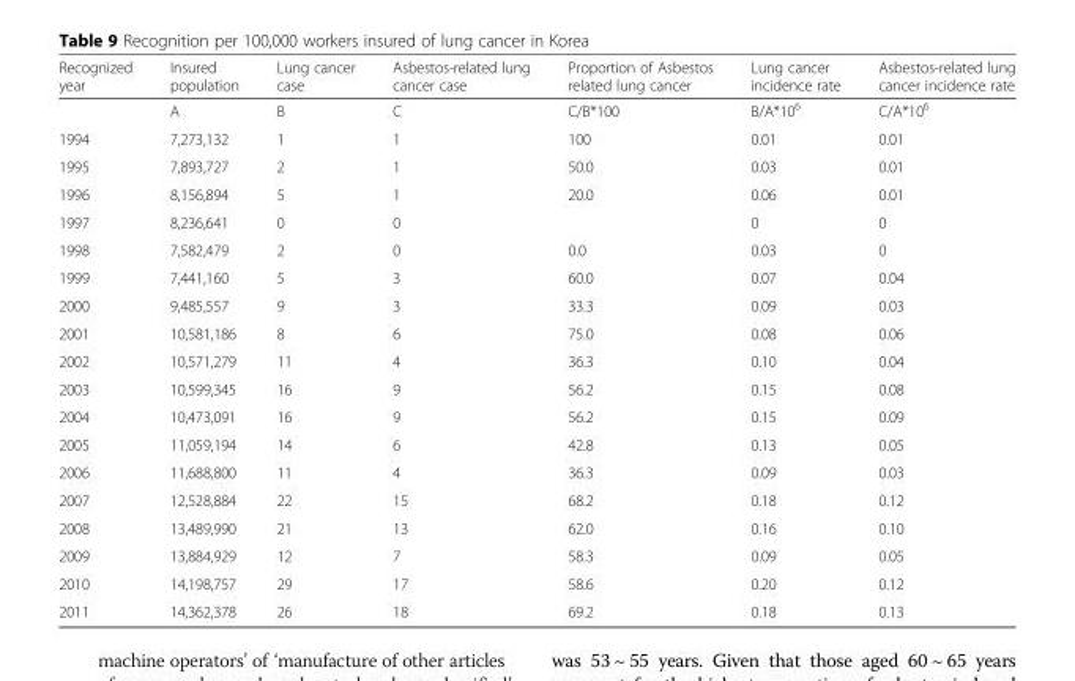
<table><thead><tr><td>Recognized year</td><td>Insured population</td><td>Lung cancer case</td><td>Asbestos-related lung cancer case</td><td>Proportion of Asbestos related lung cancer</td><td>Lung cancer incidence rate</td><td>Asbestos-related lung cancer incidence rate</td></tr></thead><tbody><tr><td></td><td>A</td><td>B</td><td>C</td><td>C/B*100</td><td>B/A*10<sup>6</sup></td><td>C/A*10<sup>6</sup></td></tr><tr><td>1994</td><td>7,273,132</td><td>1</td><td>1</td><td>100</td><td>0.01</td><td>0.01</td></tr><tr><td>1995</td><td>7,893,727</td><td>2</td><td>1</td><td>50.0</td><td>0.03</td><td>0.01</td></tr><tr><td>1996</td><td>8,156,894</td><td>5</td><td>1</td><td>20.0</td><td>0.06</td><td>0.01</td></tr><tr><td>1997</td><td>8,236,641</td><td>0</td><td>0</td><td></td><td>0</td><td>0</td></tr><tr><td>1998</td><td>7,582,479</td><td>2</td><td>0</td><td>0.0</td><td>0.03</td><td>0</td></tr><tr><td>1999</td><td>7,441,160</td><td>5</td><td>3</td><td>60.0</td><td>0.07</td><td>0.04</td></tr><tr><td>2000</td><td>9,485,557</td><td>9</td><td>3</td><td>33.3</td><td>0.09</td><td>0.03</td></tr><tr><td>2001</td><td>10,581,186</td><td>8</td><td>6</td><td>75.0</td><td>0.08</td><td>0.06</td></tr><tr><td>2002</td><td>10,571,279</td><td>11</td><td>4</td><td>36.3</td><td>0.10</td><td>0.04</td></tr><tr><td>2003</td><td>10,599,345</td><td>16</td><td>9</td><td>56.2</td><td>0.15</td><td>0.08</td></tr><tr><td>2004</td><td>10,473,091</td><td>16</td><td>9</td><td>56.2</td><td>0.15</td><td>0.09</td></tr><tr><td>2005</td><td>11,059,194</td><td>14</td><td>6</td><td>42.8</td><td>0.13</td><td>0.05</td></tr><tr><td>2006</td><td>11,688,800</td><td>11</td><td>4</td><td>36.3</td><td>0.09</td><td>0.03</td></tr><tr><td>2007</td><td>12,528,884</td><td>22</td><td>15</td><td>68.2</td><td>0.18</td><td>0.12</td></tr><tr><td>2008</td><td>13,489,990</td><td>21</td><td>13</td><td>62.0</td><td>0.16</td><td>0.10</td></tr><tr><td>2009</td><td>13,884,929</td><td>12</td><td>7</td><td>58.3</td><td>0.09</td><td>0.05</td></tr><tr><td>2010</td><td>14,198,757</td><td>29</td><td>17</td><td>58.6</td><td>0.20</td><td>0.12</td></tr><tr><td>2011</td><td>14,362,378</td><td>26</td><td>18</td><td>69.2</td><td>0.18</td><td>0.13</td></tr></tbody></table>